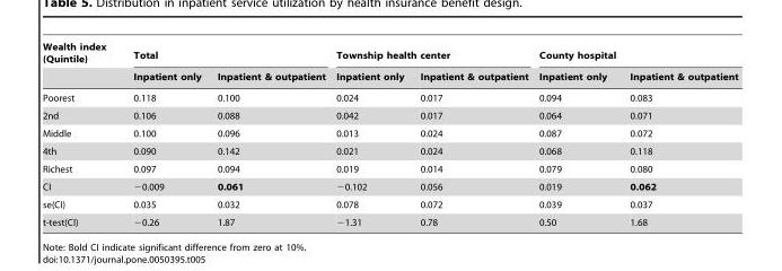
<table><thead><tr><td rowspan="2">Wealth index (Quintile)</td><td colspan="2">Total</td><td colspan="2">Township health center</td><td colspan="2">County hospital</td></tr><tr><td>Inpatient only</td><td>Inpatient &amp; outpatient</td><td>Inpatient only</td><td>Inpatient &amp; outpatient</td><td>Inpatient only</td><td>Inpatient &amp; outpatient</td></tr></thead><tbody><tr><td>Poorest</td><td>0.118</td><td>0.100</td><td>0.024</td><td>0.017</td><td>0.094</td><td>0.083</td></tr><tr><td>2nd</td><td>0.106</td><td>0.088</td><td>0.042</td><td>0.017</td><td>0.064</td><td>0.071</td></tr><tr><td>Middle</td><td>0.100</td><td>0.096</td><td>0.013</td><td>0.024</td><td>0.087</td><td>0.072</td></tr><tr><td>4th</td><td>0.090</td><td>0.142</td><td>0.021</td><td>0.024</td><td>0.068</td><td>0.118</td></tr><tr><td>Richest</td><td>0.097</td><td>0.094</td><td>0.019</td><td>0.014</td><td>0.079</td><td>0.080</td></tr><tr><td>CI</td><td>−0.009</td><td>0.061</td><td>−0.102</td><td>0.056</td><td>0.019</td><td>0.062</td></tr><tr><td>se(CI)</td><td>0.035</td><td>0.032</td><td>0.078</td><td>0.072</td><td>0.039</td><td>0.037</td></tr><tr><td>t-test(CI)</td><td>−0.26</td><td>1.87</td><td>−1.31</td><td>0.78</td><td>0.50</td><td>1.68</td></tr></tbody></table>